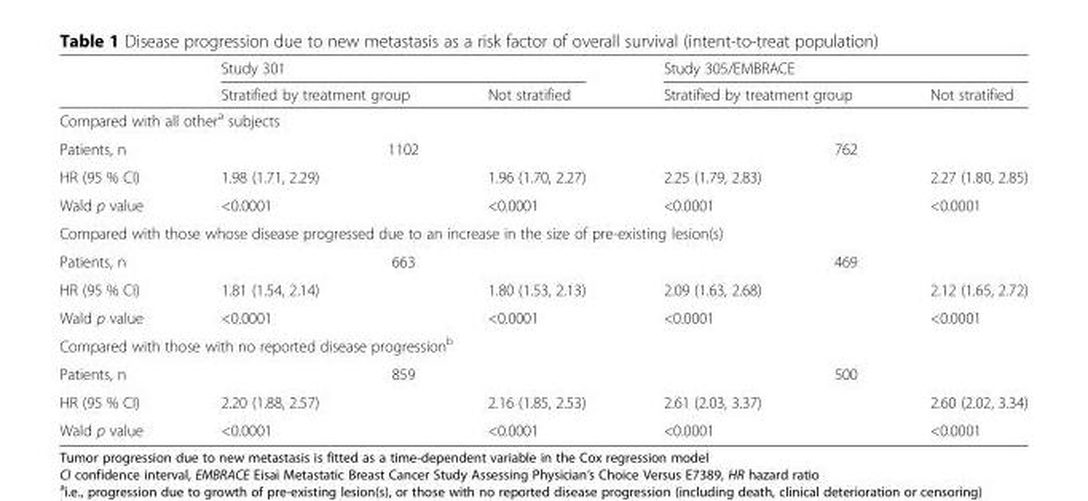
<table><thead><tr><td rowspan="2"></td><td colspan="2">Study 301</td><td colspan="2">Study 305/EMBRACE</td></tr><tr><td>Stratified by treatment group</td><td>Not stratified</td><td>Stratified by treatment group</td><td>Not stratified</td></tr></thead><tbody><tr><td colspan="5">Compared with all other<sup>a</sup> subjects</td></tr><tr><td>Patients, n</td><td colspan="2">1102</td><td colspan="2">762</td></tr><tr><td>HR (95 % CI)</td><td>1.98 (1.71, 2.29)</td><td>1.96 (1.70, 2.27)</td><td>2.25 (1.79, 2.83)</td><td>2.27 (1.80, 2.85)</td></tr><tr><td>Wald p value</td><td>&lt;0.0001</td><td>&lt;0.0001</td><td>&lt;0.0001</td><td>&lt;0.0001</td></tr><tr><td colspan="5">Compared with those whose disease progressed due to an increase in the size of pre-existing lesion(s)</td></tr><tr><td>Patients, n</td><td colspan="2">663</td><td colspan="2">469</td></tr><tr><td>HR (95 % CI)</td><td>1.81 (1.54, 2.14)</td><td>1.80 (1.53, 2.13)</td><td>2.09 (1.63, 2.68)</td><td>2.12 (1.65, 2.72)</td></tr><tr><td>Wald p value</td><td>&lt;0.0001</td><td>&lt;0.0001</td><td>&lt;0.0001</td><td>&lt;0.0001</td></tr><tr><td colspan="5">Compared with those with no reported disease progression<sup>b</sup></td></tr><tr><td>Patients, n</td><td colspan="2">859</td><td colspan="2">500</td></tr><tr><td>HR (95 % CI)</td><td>2.20 (1.88, 2.57)</td><td>2.16 (1.85, 2.53)</td><td>2.61 (2.03, 3.37)</td><td>2.60 (2.02, 3.34)</td></tr><tr><td>Wald p value</td><td>&lt;0.0001</td><td>&lt;0.0001</td><td>&lt;0.0001</td><td>&lt;0.0001</td></tr></tbody></table>